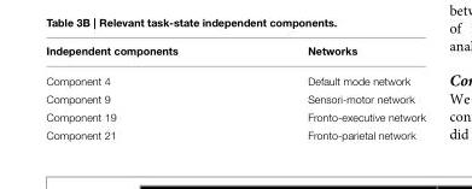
<table><thead><tr><td>Independent components</td><td>Networks</td></tr></thead><tbody><tr><td>Component 4</td><td>Default mode network</td></tr><tr><td>Component 9</td><td>Sensori-motor network</td></tr><tr><td>Component 19</td><td>Fronto-executive network</td></tr><tr><td>Component 21</td><td>Fronto-parietal network</td></tr></tbody></table>